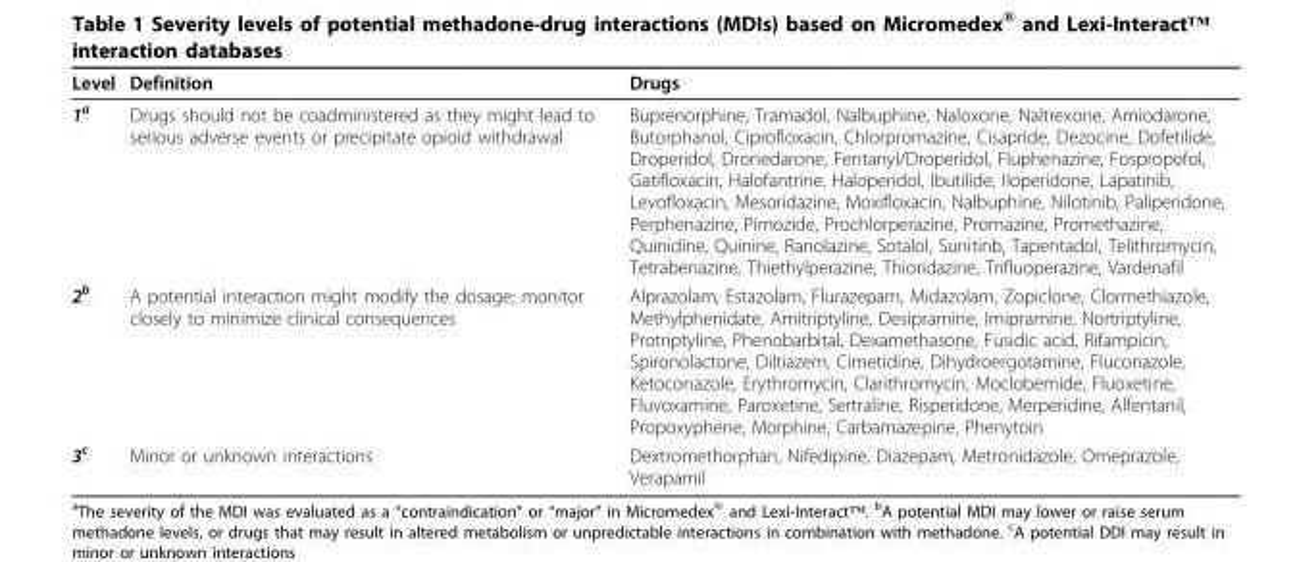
<table><thead><tr><td>Level</td><td>Definition</td><td>Drugs</td></tr></thead><tbody><tr><td>1<sup>a</sup></td><td>Drugs should not be coadministered as they might lead to serious adverse events or precipitate opioid withdrawal</td><td>Buprenorphine, Tramadol, Nalbuphine, Naloxone, Naltrexone, Amiodarone, Butorphanol, Ciprofloxacin, Chlorpromazine, Cisapride, Dezocine, Dofetilide, Droperidol, Dronedarone, Fentanyl/Droperidol, Fluphenazine, Fospropofol, Gatifloxacin, Halofantrine, Haloperidol, Ibutilide, Iloperidone, Lapatinib, Levofloxacin, Mesoridazine, Moxifloxacin, Nalbuphine, Nilotinib, Paliperidone, Perphenazine, Pimozide, Prochlorperazine, Promazine, Promethazine, Quinidine, Quinine, Ranolazine, Sotalol, Sunitinb, Tapentadol, Telithromycin, Tetrabenazine, Thiethylperazine, Thioridazine, Trifluoperazine, Vardenafil</td></tr><tr><td>2<sup>b</sup></td><td>A potential interaction might modify the dosage; monitor closely to minimize clinical consequences</td><td>Alprazolam, Estazolam, Flurazepam, Midazolam, Zopiclone, Clormethiazole, Methylphenidate, Amitriptyline, Desipramine, Imipramine, Nortriptyline, Protriptyline, Phenobarbital, Dexamethasone, Fusidic acid, Rifampicin, Spironolactone, Diltiazem, Cimetidine, Dihydroergotamine, Fluconazole, Ketoconazole, Erythromycin, Clarithromycin, Moclobemide, Fluoxetine, Fluvoxamine, Paroxetine, Sertraline, Risperidone, Merperidine, Alfentanil, Propoxyphene, Morphine, Carbamazepine, Phenytoin</td></tr><tr><td>3<sup>c</sup></td><td>Minor or unknown interactions</td><td>Dextromethorphan, Nifedipine, Diazepam, Metronidazole, Omeprazole, Verapamil</td></tr></tbody></table>